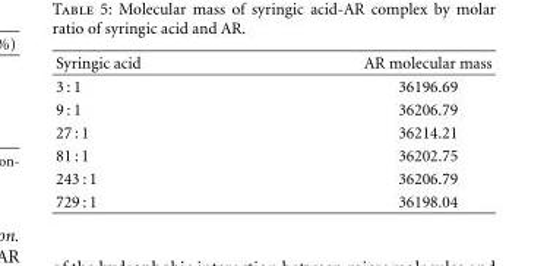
<table><thead><tr><td>Syringic acid</td><td>AR molecular mass</td></tr></thead><tbody><tr><td>3 : 1</td><td>36196.69</td></tr><tr><td>9 : 1</td><td>36206.79</td></tr><tr><td>27 : 1</td><td>36214.21</td></tr><tr><td>81 : 1</td><td>36202.75</td></tr><tr><td>243 : 1</td><td>36206.79</td></tr><tr><td>729 : 1</td><td>36198.04</td></tr></tbody></table>